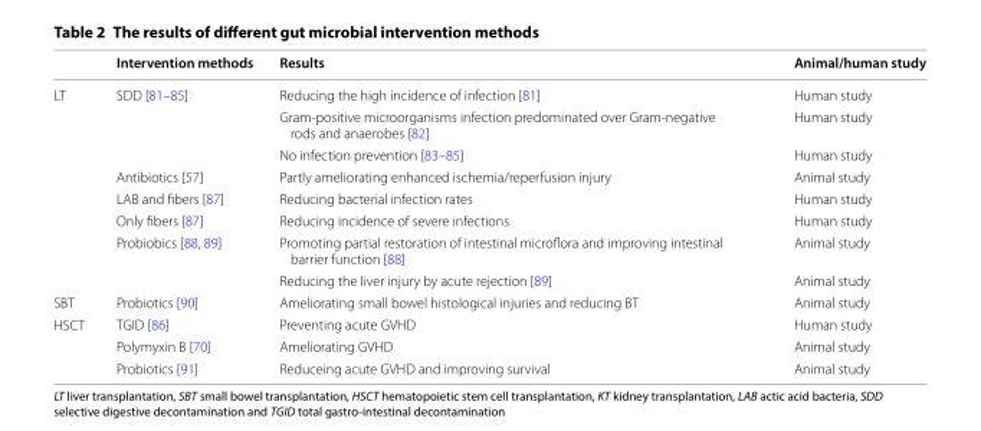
<table><thead><tr><td></td><td>Intervention methods</td><td>Results</td><td>Animal/human study</td></tr></thead><tbody><tr><td rowspan="8">LT</td><td rowspan="3">SDD [81–85]</td><td>Reducing the high incidence of infection [81]</td><td>Human study</td></tr><tr><td>Gram-positive microorganisms infection predominated over Gram-negative rods and anaerobes [82]</td><td>Human study</td></tr><tr><td>No infection prevention [83–85]</td><td>Human study</td></tr><tr><td>Antibiotics [57]</td><td>Partly ameliorating enhanced ischemia/reperfusion injury</td><td>Animal study</td></tr><tr><td>LAB and fibers [87]</td><td>Reducing bacterial infection rates</td><td>Human study</td></tr><tr><td>Only fibers [87]</td><td>Reducing incidence of severe infections</td><td>Human study</td></tr><tr><td rowspan="2">Probiobics [88, 89]</td><td>Promoting partial restoration of intestinal microflora and improving intestinal barrier function [88]</td><td>Animal study</td></tr><tr><td>Reducing the liver injury by acute rejection [89]</td><td>Animal study</td></tr><tr><td>SBT</td><td>Probiotics [90]</td><td>Ameliorating small bowel histological injuries and reducing BT</td><td>Animal study</td></tr><tr><td rowspan="3">HSCT</td><td>TGID [86]</td><td>Preventing acute GVHD</td><td>Human study</td></tr><tr><td>Polymyxin B [70]</td><td>Ameliorating GVHD</td><td>Animal study</td></tr><tr><td>Probiotics [91]</td><td>Reduceing acute GVHD and improving survival</td><td>Animal study</td></tr></tbody></table>